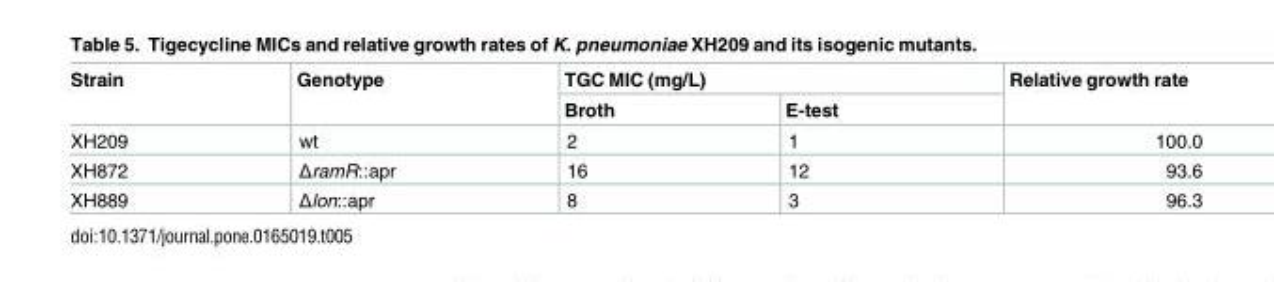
<table><thead><tr><td rowspan="2">Strain</td><td rowspan="2">Genotype</td><td colspan="2">TGC MIC (mg/L)</td><td rowspan="2">Relative growth rate</td></tr><tr><td>Broth</td><td>E-test</td></tr></thead><tbody><tr><td>XH209</td><td>wt</td><td>2</td><td>1</td><td>100.0</td></tr><tr><td>XH872</td><td>ΔramR::apr</td><td>16</td><td>12</td><td>93.6</td></tr><tr><td>XH889</td><td>Δlon::apr</td><td>8</td><td>3</td><td>96.3</td></tr></tbody></table>